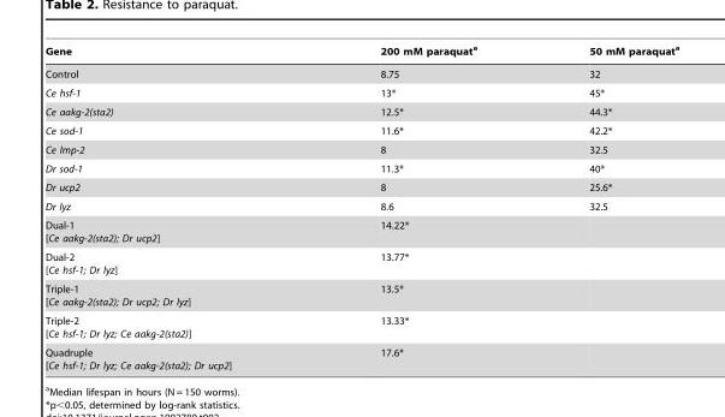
<table><thead><tr><td>Gene</td><td>200 mM paraquat<sup>a</sup></td><td>50 mM paraquat<sup>a</sup></td></tr></thead><tbody><tr><td>Control</td><td>8.75</td><td>32</td></tr><tr><td>Ce hsf-1</td><td>13*</td><td>45*</td></tr><tr><td>Ce aakg-2(sta2)</td><td>12.5*</td><td>44.3*</td></tr><tr><td>Ce sod-1</td><td>11.6*</td><td>42.2*</td></tr><tr><td>Ce lmp-2</td><td>8</td><td>32.5</td></tr><tr><td>Dr sod-1</td><td>11.3*</td><td>40*</td></tr><tr><td>Dr ucp2</td><td>8</td><td>25.6*</td></tr><tr><td>Dr lyz</td><td>8.6</td><td>32.5</td></tr><tr><td>Dual-1 [Ce aakg-2(sta2); Dr ucp2]</td><td>14.22*</td><td></td></tr><tr><td>Dual-2 [Ce hsf-1; Dr lyz]</td><td>13.77*</td><td></td></tr><tr><td>Triple-1 [Ce aakg-2(sta2); Dr ucp2; Dr lyz]</td><td>13.5*</td><td></td></tr><tr><td>Triple-2 [Ce hsf-1; Dr lyz; Ce aakg-2(sta2)]</td><td>13.33*</td><td></td></tr><tr><td>Quadruple [Ce hsf-1; Dr lyz; Ce aakg-2(sta2); Dr ucp2]</td><td>17.6*</td><td></td></tr></tbody></table>